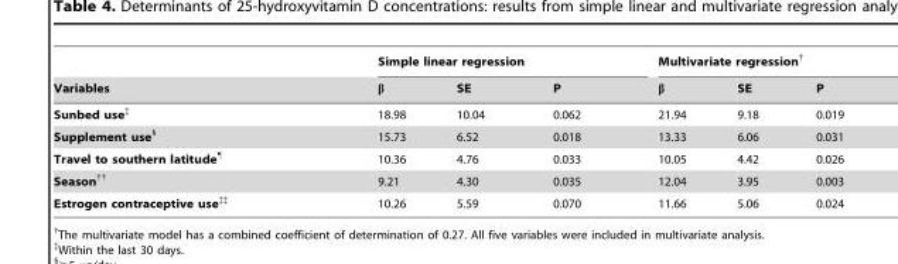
<table><thead><tr><td rowspan="2">Variables</td><td colspan="3">Simple linear regression</td><td colspan="3">Multivariate regression†</td></tr><tr><td>β</td><td>SE</td><td>P</td><td>β</td><td>SE</td><td>P</td></tr></thead><tbody><tr><td>Sunbed use‡</td><td>18.98</td><td>10.04</td><td>0.062</td><td>21.94</td><td>9.18</td><td>0.019</td></tr><tr><td>Supplement use§</td><td>15.73</td><td>6.52</td><td>0.018</td><td>13.33</td><td>6.06</td><td>0.031</td></tr><tr><td>Travel to southern latitude¶</td><td>10.36</td><td>4.76</td><td>0.033</td><td>10.05</td><td>4.42</td><td>0.026</td></tr><tr><td>Season††</td><td>9.21</td><td>4.30</td><td>0.035</td><td>12.04</td><td>3.95</td><td>0.003</td></tr><tr><td>Estrogen contraceptive use‡‡</td><td>10.26</td><td>5.59</td><td>0.070</td><td>11.66</td><td>5.06</td><td>0.024</td></tr></tbody></table>